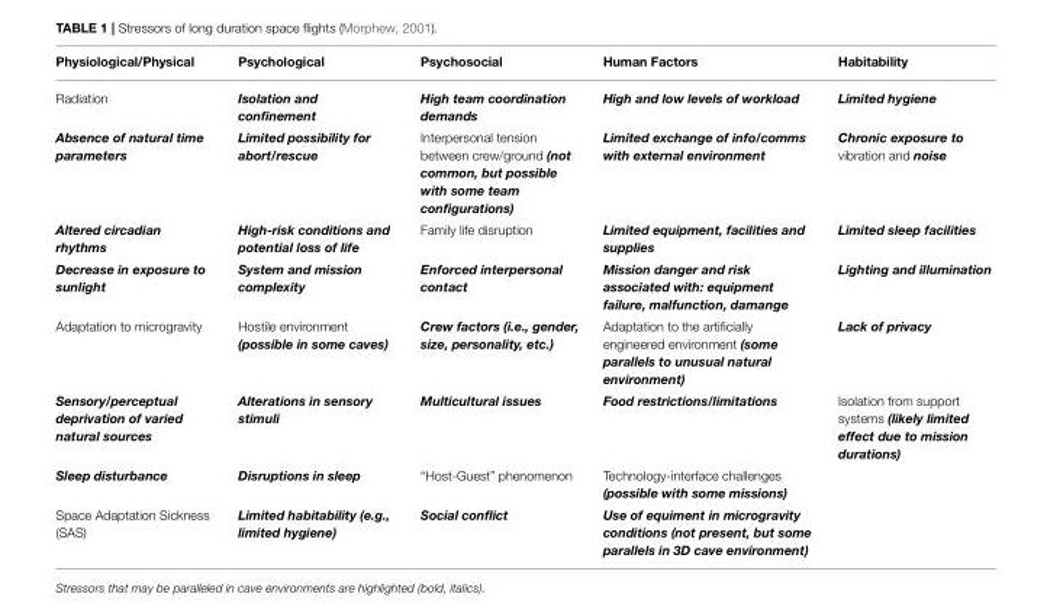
<table><thead><tr><td>Physiological/Physical</td><td>Psychological</td><td>Psychosocial</td><td>Human Factors</td><td>Habitability</td></tr></thead><tbody><tr><td>Radiation</td><td>Isolation and confinement</td><td>High team coordination demands</td><td>High and low levels of workload</td><td>Limited hygiene</td></tr><tr><td>Absence of natural time parameters</td><td>Limited possibility for abort/rescue</td><td>Interpersonal tension between crew/ground (not common, but possible with some team configurations)</td><td>Limited exchange of info/comms with external environment</td><td>Chronic exposure to vibration and noise</td></tr><tr><td>Altered circadian rhythms</td><td>High-risk conditions and potential loss of life</td><td>Family life disruption</td><td>Limited equipment, facilities and supplies</td><td>Limited sleep facilities</td></tr><tr><td>Decrease in exposure to sunlight</td><td>System and mission complexity</td><td>Enforced interpersonal contact</td><td>Mission danger and risk associated with: equipment failure, malfunction, damange</td><td>Lighting and illumination</td></tr><tr><td>Adaptation to microgravity</td><td>Hostile environment (possible in some caves)</td><td>Crew factors (i.e., gender, size, personality, etc.)</td><td>Adaptation to the artificially engineered environment (some parallels to unusual natural environment)</td><td>Lack of privacy</td></tr><tr><td>Sensory/perceptual deprivation of varied natural sources</td><td>Alterations in sensory stimuli</td><td>Multicultural issues</td><td>Food restrictions/limitations</td><td>Isolation from support systems (likely limited effect due to mission durations)</td></tr><tr><td>Sleep disturbance</td><td>Disruptions in sleep</td><td>“Host-Guest” phenomenon</td><td>Technology-interface challenges (possible with some missions)</td><td></td></tr><tr><td>Space Adaptation Sickness (SAS)</td><td>Limited habitability (e.g., limited hygiene)</td><td>Social conflict</td><td>Use of equiment in microgravity conditions (not present, but some parallels in 3D cave environment)</td><td></td></tr></tbody></table>